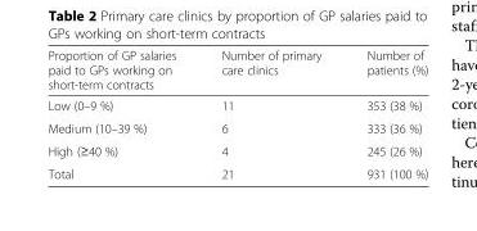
<table><thead><tr><td>Proportion of GP salaries paid to GPs working on short-term contracts</td><td>Number of primary care clinics</td><td>Number of patients (%)</td></tr></thead><tbody><tr><td>Low (0–9 %)</td><td>11</td><td>353 (38 %)</td></tr><tr><td>Medium (10–39 %)</td><td>6</td><td>333 (36 %)</td></tr><tr><td>High (≥40 %)</td><td>4</td><td>245 (26 %)</td></tr><tr><td>Total</td><td>21</td><td>931 (100 %)</td></tr></tbody></table>